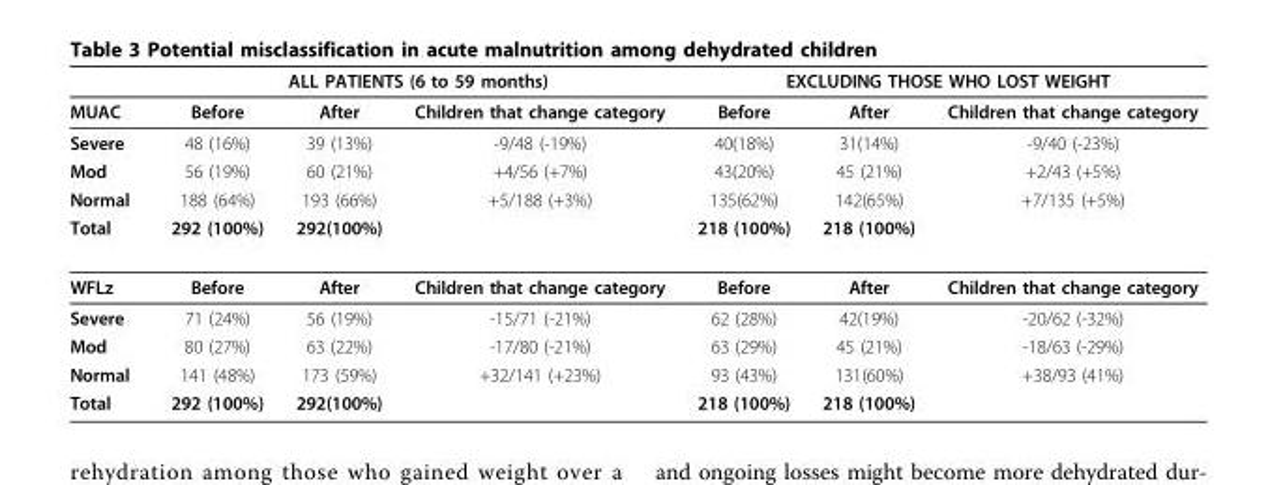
<table><thead><tr><td rowspan="2">MUAC</td><td colspan="3">ALL PATIENTS (6 to 59 months)</td><td colspan="3">EXCLUDING THOSE WHO LOST WEIGHT</td></tr><tr><td>Before</td><td>After</td><td>Children that change category</td><td>Before</td><td>After</td><td>Children that change category</td></tr></thead><tbody><tr><td>Severe</td><td>48 (16%)</td><td>39 (13%)</td><td>-9/48 (-19%)</td><td>40(18%)</td><td>31(14%)</td><td>-9/40 (-23%)</td></tr><tr><td>Mod</td><td>56 (19%)</td><td>60 (21%)</td><td>+4/56 (+7%)</td><td>43(20%)</td><td>45 (21%)</td><td>+2/43 (+5%)</td></tr><tr><td>Normal</td><td>188 (64%)</td><td>193 (66%)</td><td>+5/188 (+3%)</td><td>135(62%)</td><td>142(65%)</td><td>+7/135 (+5%)</td></tr><tr><td>Total</td><td>292 (100%)</td><td>292(100%)</td><td></td><td>218 (100%)</td><td>218 (100%)</td><td></td></tr><tr><td>WFLz</td><td>Before</td><td>After</td><td>Children that change category</td><td>Before</td><td>After</td><td>Children that change category</td></tr><tr><td>Severe</td><td>71 (24%)</td><td>56 (19%)</td><td>-15/71 (-21%)</td><td>62 (28%)</td><td>42(19%)</td><td>-20/62 (-32%)</td></tr><tr><td>Mod</td><td>80 (27%)</td><td>63 (22%)</td><td>-17/80 (-21%)</td><td>63 (29%)</td><td>45 (21%)</td><td>-18/63 (-29%)</td></tr><tr><td>Normal</td><td>141 (48%)</td><td>173 (59%)</td><td>+32/141 (+23%)</td><td>93 (43%)</td><td>131(60%)</td><td>+38/93 (41%)</td></tr><tr><td>Total</td><td>292 (100%)</td><td>292(100%)</td><td></td><td>218 (100%)</td><td>218 (100%)</td><td></td></tr></tbody></table>